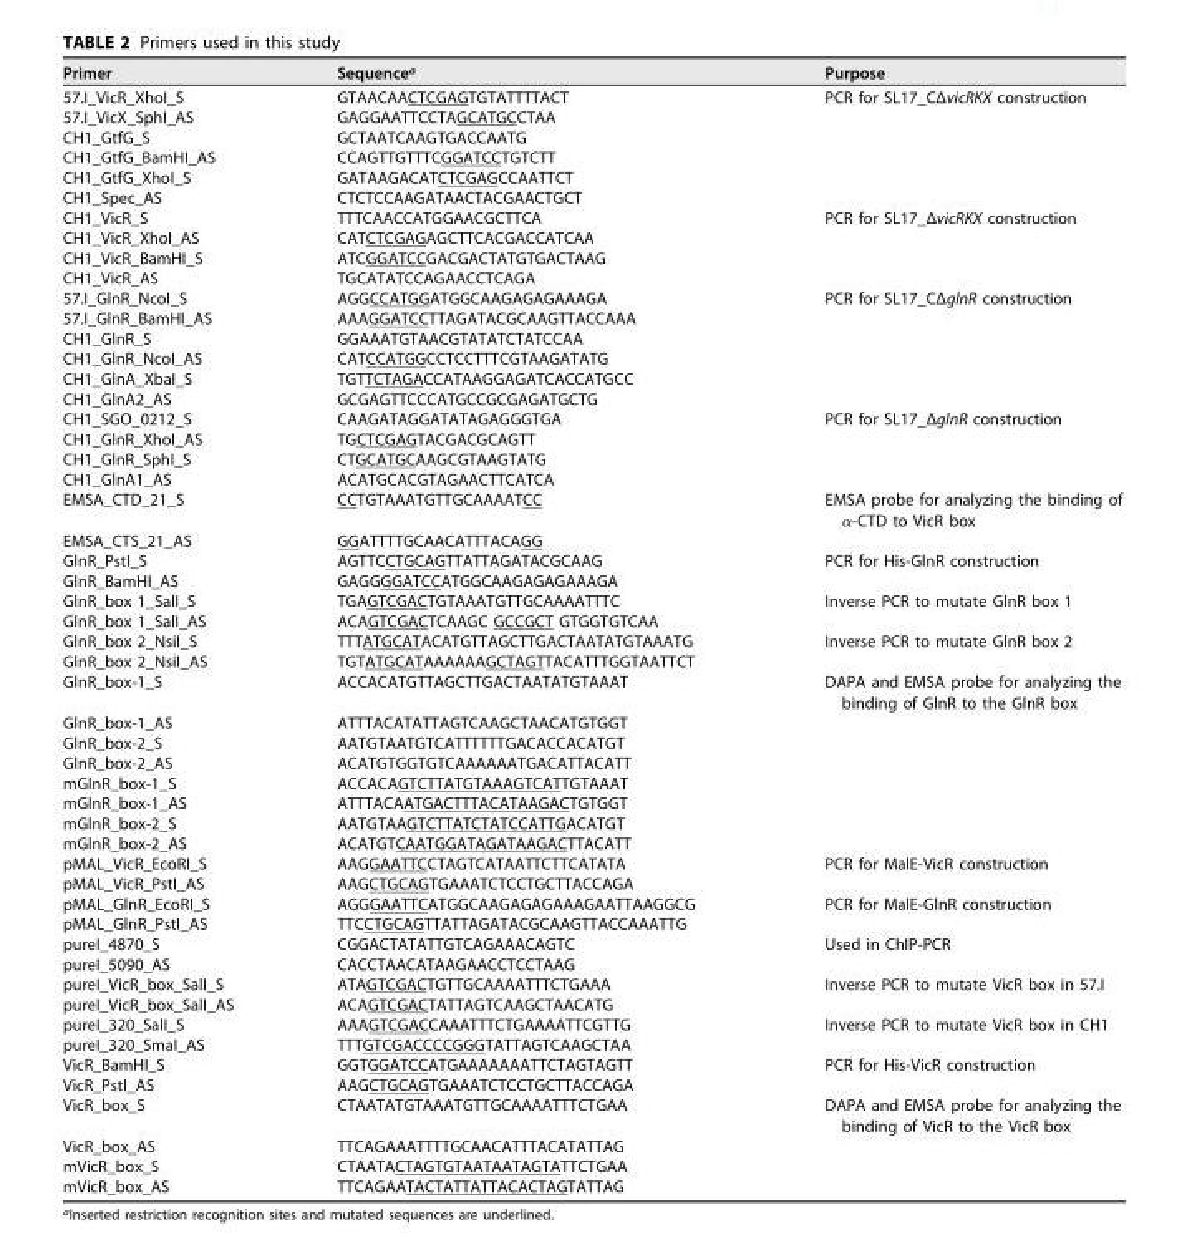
<table><thead><tr><td>Primer</td><td>Sequence<sup>a</sup></td><td>Purpose</td></tr></thead><tbody><tr><td>57.I_VicR_XhoI_S</td><td>GTAACAACTCGAGTGTATTTTACT</td><td>PCR for SL17_CΔvicRKX construction</td></tr><tr><td>57.I_VicX_SphI_AS</td><td>GAGGAATTCCTAGCATGCCTAA</td><td></td></tr><tr><td>CH1_GtfG_S</td><td>GCTAATCAAGTGACCAATG</td><td></td></tr><tr><td>CH1_GtfG_BamHI_AS</td><td>CCAGTTGTTTCGGATCCTGTCTT</td><td></td></tr><tr><td>CH1_GtfG_XhoI_S</td><td>GATAAGACATCTCGAGCCAATTCT</td><td></td></tr><tr><td>CH1_Spec_AS</td><td>CTCTCCAAGATAACTACGAACTGCT</td><td></td></tr><tr><td>CH1_VicR_S</td><td>TTTCAACCATGGAACGCTTCA</td><td>PCR for SL17_ΔvicRKX construction</td></tr><tr><td>CH1_VicR_XhoI_AS</td><td>CATCTCGAGAGCTTCACGACCATCAA</td><td></td></tr><tr><td>CH1_VicR_BamHI_S</td><td>ATCGGATCCGACGACTATGTGACTAAG</td><td></td></tr><tr><td>CH1_VicR_AS</td><td>TGCATATCCAGAACCTCAGA</td><td></td></tr><tr><td>57.I_GlnR_NcoI_S</td><td>AGGCCATGGATGGCAAGAGAGAAAGA</td><td>PCR for SL17_CΔglnR construction</td></tr><tr><td>57.I_GlnR_BamHI_AS</td><td>AAAGGATCCTTAGATACGCAAGTTACCAAA</td><td></td></tr><tr><td>CH1_GlnR_S</td><td>GGAAATGTAACGTATATCTATCCAA</td><td></td></tr><tr><td>CH1_GlnR_NcoI_AS</td><td>CATCCATGGCCTCCTTTCGTAAGATATG</td><td></td></tr><tr><td>CH1_GlnA_XbaI_S</td><td>TGTTCTAGACCATAAGGAGATCACCATGCC</td><td></td></tr><tr><td>CH1_GlnA2_AS</td><td>GCGAGTTCCCATGCCGCGAGATGCTG</td><td></td></tr><tr><td>CH1_SGO_0212_S</td><td>CAAGATAGGATATAGAGGGTGA</td><td>PCR for SL17_ΔglnR construction</td></tr><tr><td>CH1_GlnR_XhoI_AS</td><td>TGCTCGAGTACGACGCAGTT</td><td></td></tr><tr><td>CH1_GlnR_SphI_S</td><td>CTGCATGCAAGCGTAAGTATG</td><td></td></tr><tr><td>CH1_GlnA1_AS</td><td>ACATGCACGTAGAACTTCATCA</td><td></td></tr><tr><td>EMSA_CTD_21_S</td><td>CCTGTAAATGTTGCAAAATCC</td><td>EMSA probe for analyzing the binding of α-CTD to VicR box</td></tr><tr><td>EMSA_CTS_21_AS</td><td>GGATTTTGCAACATTTACAGG</td><td></td></tr><tr><td>GlnR_PstI_S</td><td>AGTTCCTGCAGTTATTAGATACGCAAG</td><td>PCR for His-GlnR construction</td></tr><tr><td>GlnR_BamHI_AS</td><td>GAGGGGATCCATGGCAAGAGAGAAAGA</td><td></td></tr><tr><td>GlnR_box 1_SalI_S</td><td>TGAGTCGACTGTAAATGTTGCAAAATTTC</td><td>Inverse PCR to mutate GlnR box 1</td></tr><tr><td>GlnR_box 1_SalI_AS</td><td>ACAGTCGACTCAAGC GCCGCT GTGGTGTCAA</td><td></td></tr><tr><td>GlnR_box 2_NsiI_S</td><td>TTTATGCATACATGTTAGCTTGACTAATATGTAAATG</td><td>Inverse PCR to mutate GlnR box 2</td></tr><tr><td>GlnR_box 2_NsiI_AS</td><td>TGTATGCATAAAAAAGCTAGTTACATTTGGTAATTCT</td><td></td></tr><tr><td>GlnR_box-1_S</td><td>ACCACATGTTAGCTTGACTAATATGTAAAT</td><td>DAPA and EMSA probe for analyzing the binding of GlnR to the GlnR box</td></tr><tr><td>GlnR_box-1_AS</td><td>ATTTACATATTAGTCAAGCTAACATGTGGT</td><td></td></tr><tr><td>GlnR_box-2_S</td><td>AATGTAATGTCATTTTTTGACACCACATGT</td><td></td></tr><tr><td>GlnR_box-2_AS</td><td>ACATGTGGTGTCAAAAAATGACATTACATT</td><td></td></tr><tr><td>mGlnR_box-1_S</td><td>ACCACAGTCTTATGTAAAGTCATTGTAAAT</td><td></td></tr><tr><td>mGlnR_box-1_AS</td><td>ATTTACAATGACTTTACATAAGACTGTGGT</td><td></td></tr><tr><td>mGlnR_box-2_S</td><td>AATGTAAGTCTTATCTATCCATTGACATGT</td><td></td></tr><tr><td>mGlnR_box-2_AS</td><td>ACATGTCAATGGATAGATAAGACTTACATT</td><td></td></tr><tr><td>pMAL_VicR_EcoRI_S</td><td>AAGGAATTCCTAGTCATAATTCTTCATATA</td><td>PCR for MalE-VicR construction</td></tr><tr><td>pMAL_VicR_PstI_AS</td><td>AAGCTGCAGTGAAATCTCCTGCTTACCAGA</td><td></td></tr><tr><td>pMAL_GlnR_EcoRI_S</td><td>AGGGAATTCATGGCAAGAGAGAAAGAATTAAGGCG</td><td>PCR for MalE-GlnR construction</td></tr><tr><td>pMAL_GlnR_PstI_AS</td><td>TTCCTGCAGTTATTAGATACGCAAGTTACCAAATTG</td><td></td></tr><tr><td>pureI_4870_S</td><td>CGGACTATATTGTCAGAAACAGTC</td><td>Used in ChIP-PCR</td></tr><tr><td>pureI_5090_AS</td><td>CACCTAACATAAGAACCTCCTAAG</td><td></td></tr><tr><td>pureI_VicR_box_SalI_S</td><td>ATAGTCGACTGTTGCAAAATTTCTGAAA</td><td>Inverse PCR to mutate VicR box in 57.I</td></tr><tr><td>pureI_VicR_box_SalI_AS</td><td>ACAGTCGACTATTAGTCAAGCTAACATG</td><td></td></tr><tr><td>pureI_320_SalI_S</td><td>AAAGTCGACCAAATTTCTGAAAATTCGTTG</td><td>Inverse PCR to mutate VicR box in CH1</td></tr><tr><td>pureI_320_SmaI_AS</td><td>TTTGTCGACCCCGGGTATTAGTCAAGCTAA</td><td></td></tr><tr><td>VicR_BamHI_S</td><td>GGTGGATCCATGAAAAAAATTCTAGTAGTT</td><td>PCR for His-VicR construction</td></tr><tr><td>VicR_PstI_AS</td><td>AAGCTGCAGTGAAATCTCCTGCTTACCAGA</td><td></td></tr><tr><td>VicR_box_S</td><td>CTAATATGTAAATGTTGCAAAATTTCTGAA</td><td>DAPA and EMSA probe for analyzing the binding of VicR to the VicR box</td></tr><tr><td>VicR_box_AS</td><td>TTCAGAAATTTTGCAACATTTACATATTAG</td><td></td></tr><tr><td>mVicR_box_S</td><td>CTAATACTAGTGTAATAATAGTATTCTGAA</td><td></td></tr><tr><td>mVicR_box_AS</td><td>TTCAGAATACTATTATTACACTAGTATTAG</td><td></td></tr></tbody></table>